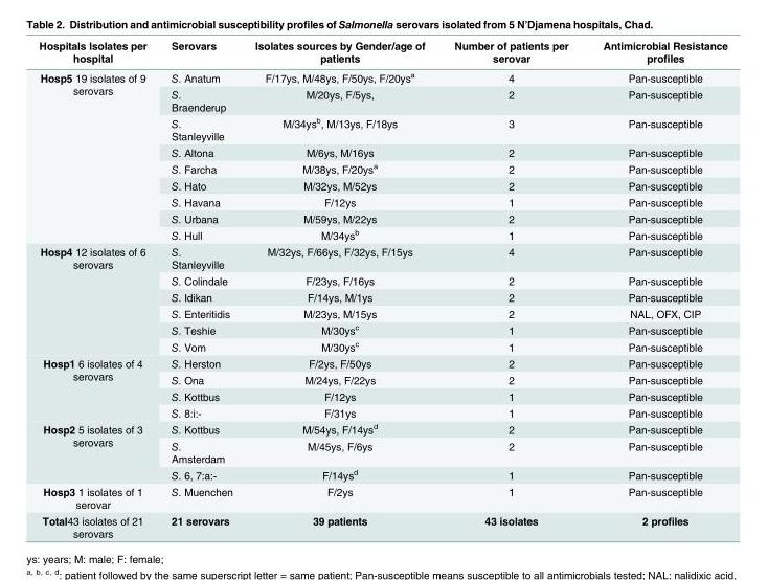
<table><thead><tr><td>Hospitals Isolates per hospital</td><td>Serovars</td><td>Isolates sources by Gender/age of patients</td><td>Number of patients per serovar</td><td>Antimicrobial Resistance profiles</td></tr></thead><tbody><tr><td rowspan="9">Hosp5 19 isolates of 9 serovars</td><td>S. Anatum</td><td>F/17ys, M/48ys, F/50ys, F/20ys<sup>a</sup></td><td>4</td><td>Pan-susceptible</td></tr><tr><td>S. Braenderup</td><td>M/20ys, F/5ys,</td><td>2</td><td>Pan-susceptible</td></tr><tr><td>S. Stanleyville</td><td>M/34ys<sup>b</sup>, M/13ys, F/18ys</td><td>3</td><td>Pan-susceptible</td></tr><tr><td>S. Altona</td><td>M/6ys, M/16ys</td><td>2</td><td>Pan-susceptible</td></tr><tr><td>S. Farcha</td><td>M/38ys, F/20ys<sup>a</sup></td><td>2</td><td>Pan-susceptible</td></tr><tr><td>S. Hato</td><td>M/32ys, M/52ys</td><td>2</td><td>Pan-susceptible</td></tr><tr><td>S. Havana</td><td>F/12ys</td><td>1</td><td>Pan-susceptible</td></tr><tr><td>S. Urbana</td><td>M/59ys, M/22ys</td><td>2</td><td>Pan-susceptible</td></tr><tr><td>S. Hull</td><td>M/34ys<sup>b</sup></td><td>1</td><td>Pan-susceptible</td></tr><tr><td rowspan="6">Hosp4 12 isolates of 6 serovars</td><td>S. Stanleyville</td><td>M/32ys, F/66ys, F/32ys, F/15ys</td><td>4</td><td>Pan-susceptible</td></tr><tr><td>S. Colindale</td><td>F/23ys, F/16ys</td><td>2</td><td>Pan-susceptible</td></tr><tr><td>S. Idikan</td><td>F/14ys, M/1ys</td><td>2</td><td>Pan-susceptible</td></tr><tr><td>S. Enteritidis</td><td>M/23ys, M/15ys</td><td>2</td><td>NAL, OFX, CIP</td></tr><tr><td>S. Teshie</td><td>M/30ys<sup>c</sup></td><td>1</td><td>Pan-susceptible</td></tr><tr><td>S. Vom</td><td>M/30ys<sup>c</sup></td><td>1</td><td>Pan-susceptible</td></tr><tr><td rowspan="4">Hosp1 6 isolates of 4 serovars</td><td>S. Herston</td><td>F/2ys, F/50ys</td><td>2</td><td>Pan-susceptible</td></tr><tr><td>S. Ona</td><td>M/24ys, F/22ys</td><td>2</td><td>Pan-susceptible</td></tr><tr><td>S. Kottbus</td><td>F/12ys</td><td>1</td><td>Pan-susceptible</td></tr><tr><td>S. 8:i:-</td><td>F/31ys</td><td>1</td><td>Pan-susceptible</td></tr><tr><td rowspan="3">Hosp2 5 isolates of 3 serovars</td><td>S. Kottbus</td><td>M/54ys, F/14ys<sup>d</sup></td><td>2</td><td>Pan-susceptible</td></tr><tr><td>S. Amsterdam</td><td>M/45ys, F/6ys</td><td>2</td><td>Pan-susceptible</td></tr><tr><td>S. 6, 7:a:-</td><td>F/14ys<sup>d</sup></td><td>1</td><td>Pan-susceptible</td></tr><tr><td>Hosp3 1 isolates of 1 serovar</td><td>S. Muenchen</td><td>F/2ys</td><td>1</td><td>Pan-susceptible</td></tr><tr><td>Total43 isolates of 21 serovars</td><td>21 serovars</td><td>39 patients</td><td>43 isolates</td><td>2 profiles</td></tr></tbody></table>